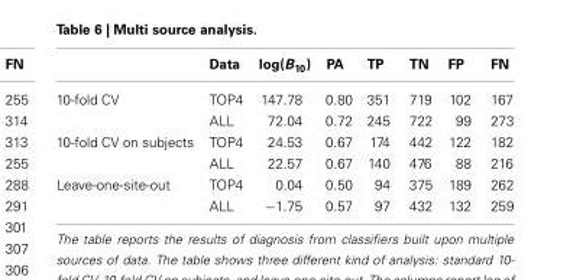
<table><thead><tr><td></td><td>Data</td><td>log(B<sub>10</sub>)</td><td>PA</td><td>TP</td><td>TN</td><td>FP</td><td>FN</td></tr></thead><tbody><tr><td rowspan="2">10-fold CV</td><td>TOP4</td><td>147.78</td><td>0.80</td><td>351</td><td>719</td><td>102</td><td>167</td></tr><tr><td>ALL</td><td>72.04</td><td>0.72</td><td>245</td><td>722</td><td>99</td><td>273</td></tr><tr><td rowspan="2">10-fold CV on subjects</td><td>TOP4</td><td>24.53</td><td>0.67</td><td>174</td><td>442</td><td>122</td><td>182</td></tr><tr><td>ALL</td><td>22.57</td><td>0.67</td><td>140</td><td>476</td><td>88</td><td>216</td></tr><tr><td rowspan="2">Leave-one-site-out</td><td>TOP4</td><td>0.04</td><td>0.50</td><td>94</td><td>375</td><td>189</td><td>262</td></tr><tr><td>ALL</td><td>−1.75</td><td>0.57</td><td>97</td><td>432</td><td>132</td><td>259</td></tr></tbody></table>